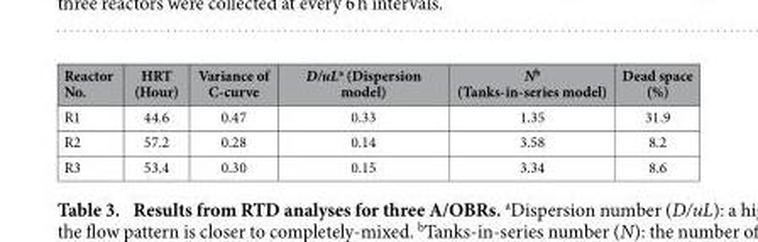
<table><thead><tr><td>Reactor No.</td><td>HRT (Hour)</td><td>Variance of C-curve</td><td>D/uL<sup>a</sup> (Dispersion model)</td><td>N<sup>b</sup> (Tanks-in-series model)</td><td>Dead space (%)</td></tr></thead><tbody><tr><td>R1</td><td>44.6</td><td>0.47</td><td>0.33</td><td>1.35</td><td>31.9</td></tr><tr><td>R2</td><td>57.2</td><td>0.28</td><td>0.14</td><td>3.58</td><td>8.2</td></tr><tr><td>R3</td><td>53.4</td><td>0.30</td><td>0.15</td><td>3.34</td><td>8.6</td></tr></tbody></table>